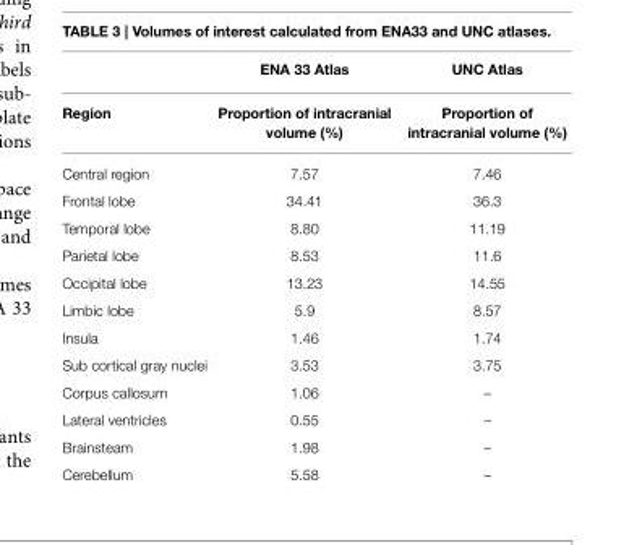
<table><thead><tr><td rowspan="2">Region</td><td rowspan="2">ENA 33 Atlas Proportion of intracranial volume (%)</td><td rowspan="2">UNC Atlas Proportion of intracranial volume (%)</td></tr><tr></tr></thead><tbody><tr><td>Central region</td><td>7.57</td><td>7.46</td></tr><tr><td>Frontal lobe</td><td>34.41</td><td>36.3</td></tr><tr><td>Temporal lobe</td><td>8.80</td><td>11.19</td></tr><tr><td>Parietal lobe</td><td>8.53</td><td>11.6</td></tr><tr><td>Occipital lobe</td><td>13.23</td><td>14.55</td></tr><tr><td>Limbic lobe</td><td>5.9</td><td>8.57</td></tr><tr><td>Insula</td><td>1.46</td><td>1.74</td></tr><tr><td>Sub cortical gray nuclei</td><td>3.53</td><td>3.75</td></tr><tr><td>Corpus callosum</td><td>1.06</td><td>–</td></tr><tr><td>Lateral ventricles</td><td>0.55</td><td>–</td></tr><tr><td>Brainsteam</td><td>1.98</td><td>–</td></tr><tr><td>Cerebellum</td><td>5.58</td><td>–</td></tr></tbody></table>